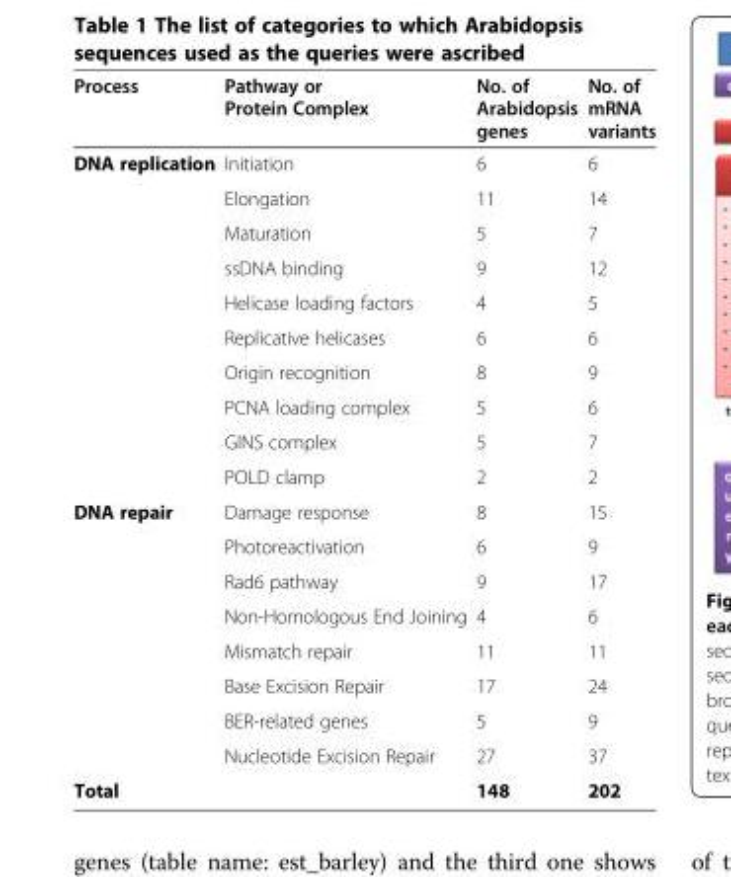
<table><thead><tr><td>Process</td><td>Pathway or Protein Complex</td><td>No. of Arabidopsis genes</td><td>No. of mRNA variants</td></tr></thead><tbody><tr><td rowspan="10">DNA replication</td><td>Initiation</td><td>6</td><td>6</td></tr><tr><td>Elongation</td><td>11</td><td>14</td></tr><tr><td>Maturation</td><td>5</td><td>7</td></tr><tr><td>ssDNA binding</td><td>9</td><td>12</td></tr><tr><td>Helicase loading factors</td><td>4</td><td>5</td></tr><tr><td>Replicative helicases</td><td>6</td><td>6</td></tr><tr><td>Origin recognition</td><td>8</td><td>9</td></tr><tr><td>PCNA loading complex</td><td>5</td><td>6</td></tr><tr><td>GINS complex</td><td>5</td><td>7</td></tr><tr><td>POLD clamp</td><td>2</td><td>2</td></tr><tr><td rowspan="8">DNA repair</td><td>Damage response</td><td>8</td><td>15</td></tr><tr><td>Photoreactivation</td><td>6</td><td>9</td></tr><tr><td>Rad6 pathway</td><td>9</td><td>17</td></tr><tr><td>Non-Homologous End Joining</td><td>4</td><td>6</td></tr><tr><td>Mismatch repair</td><td>11</td><td>11</td></tr><tr><td>Base Excision Repair</td><td>17</td><td>24</td></tr><tr><td>BER-related genes</td><td>5</td><td>9</td></tr><tr><td>Nucleotide Excision Repair</td><td>27</td><td>37</td></tr><tr><td colspan="2">Total</td><td>148</td><td>202</td></tr></tbody></table>